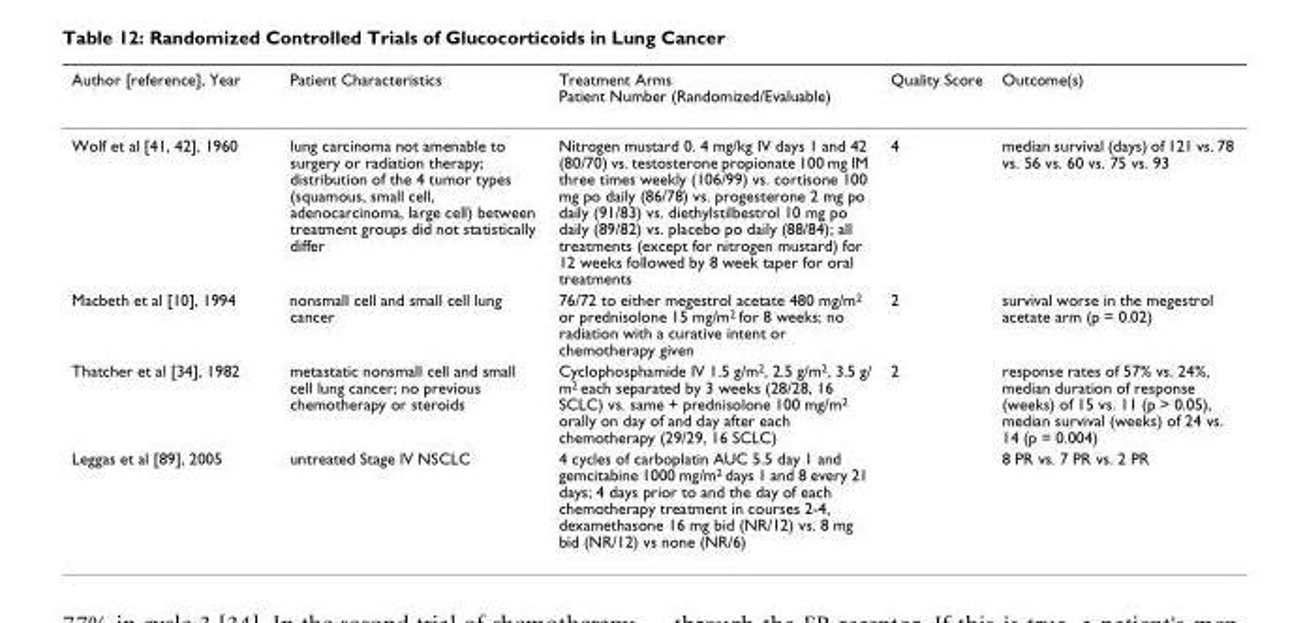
<table><thead><tr><td>Author [reference], Year</td><td>Patient Characteristics</td><td>Treatment Arms Patient Number (Randomized/Evaluable)</td><td>Quality Score</td><td>Outcome(s)</td></tr></thead><tbody><tr><td>Wolf et al [41, 42], 1960</td><td>lung carcinoma not amenable to surgery or radiation therapy; distribution of the 4 tumor types (squamous, small cell, adenocarcinoma, large cell) between treatment groups did not statistically differ</td><td>Nitrogen mustard 0. 4 mg/kg IV days 1 and 42 (80/70) vs. testosterone propionate 100 mg IM three times weekly (106/99) vs. cortisone 100 mg po daily (86/78) vs. progesterone 2 mg po daily (91/83) vs. diethylstilbestrol 10 mg po daily (89/82) vs. placebo po daily (88/84); all treatments (except for nitrogen mustard) for 12 weeks followed by 8 week taper for oral treatments</td><td>4</td><td>median survival (days) of 121 vs. 78 vs. 56 vs. 60 vs. 75 vs. 93</td></tr><tr><td>Macbeth et al [10], 1994</td><td>nonsmall cell and small cell lung cancer</td><td>76/72 to either megestrol acetate 480 mg/m<sup>2</sup> or prednisolone 15 mg/m<sup>2</sup> for 8 weeks; no radiation with a curative intent or chemotherapy given</td><td>2</td><td>survival worse in the megestrol acetate arm (p = 0.02)</td></tr><tr><td>Thatcher et al [34], 1982</td><td>metastatic nonsmall cell and small cell lung cancer; no previous chemotherapy or steroids</td><td>Cyclophosphamide IV 1.5 g/m<sup>2</sup>, 2.5 g/m<sup>2</sup>, 3.5 g/ m<sup>2</sup> each separated by 3 weeks (28/28, 16 SCLC) vs. same + prednisolone 100 mg/m<sup>2</sup> orally on day of and day after each chemotherapy (29/29, 16 SCLC)</td><td>2</td><td>response rates of 57% vs. 24%, median duration of response (weeks) of 15 vs. 11 (p &gt; 0.05), median survival (weeks) of 24 vs. 14 (p = 0.004)</td></tr><tr><td>Leggas et al [89], 2005</td><td>untreated Stage lV NSCLC</td><td>4 cycles of carboplatin AUC 5.5 day 1 and gemcitabine 1000 mg/m<sup>2</sup> days 1 and 8 every 21 days; 4 days prior to and the day of each chemotherapy treatment in courses 2-4, dexamethasone 16 mg bid (NR/12) vs. 8 mg bid (NR/12) vs none (NR/6)</td><td></td><td>8 PR vs. 7 PR vs. 2 PR</td></tr></tbody></table>